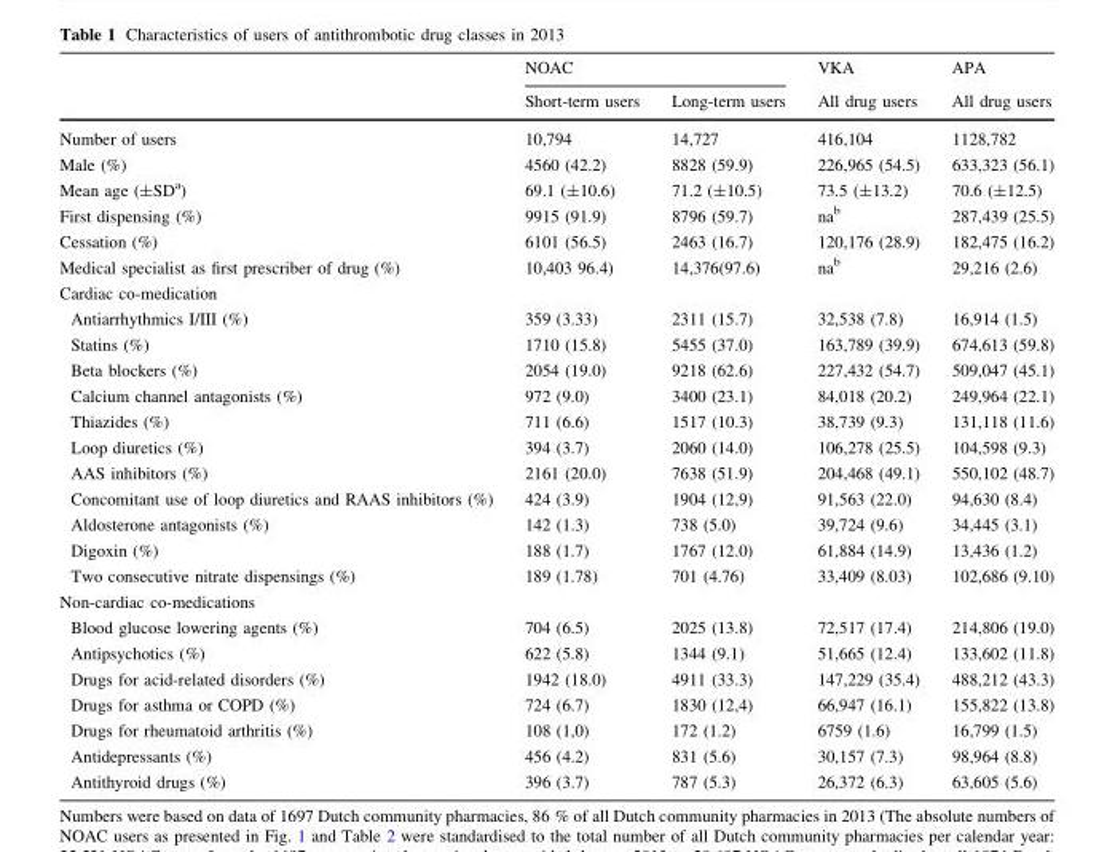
<table><thead><tr><td rowspan="2"></td><td colspan="2">NOAC</td><td rowspan="2">VKA All drug users</td><td rowspan="2">APA All drug users</td></tr><tr><td>Short-term users</td><td>Long-term users</td></tr></thead><tbody><tr><td>Number of users</td><td>10,794</td><td>14,727</td><td>416,104</td><td>1128,782</td></tr><tr><td>Male (%)</td><td>4560 (42.2)</td><td>8828 (59.9)</td><td>226,965 (54.5)</td><td>633,323 (56.1)</td></tr><tr><td>Mean age (±SD<sup>a</sup>)</td><td>69.1 (±10.6)</td><td>71.2 (±10.5)</td><td>73.5 (±13.2)</td><td>70.6 (±12.5)</td></tr><tr><td>First dispensing (%)</td><td>9915 (91.9)</td><td>8796 (59.7)</td><td>na<sup>b</sup></td><td>287,439 (25.5)</td></tr><tr><td>Cessation (%)</td><td>6101 (56.5)</td><td>2463 (16.7)</td><td>120,176 (28.9)</td><td>182,475 (16.2)</td></tr><tr><td>Medical specialist as first prescriber of drug (%)</td><td>10,403 96.4)</td><td>14,376(97.6)</td><td>na<sup>b</sup></td><td>29,216 (2.6)</td></tr><tr><td colspan="5">Cardiac co-medication</td></tr><tr><td>Antiarrhythmics I/III (%)</td><td>359 (3.33)</td><td>2311 (15.7)</td><td>32,538 (7.8)</td><td>16,914 (1.5)</td></tr><tr><td>Statins (%)</td><td>1710 (15.8)</td><td>5455 (37.0)</td><td>163,789 (39.9)</td><td>674,613 (59.8)</td></tr><tr><td>Beta blockers (%)</td><td>2054 (19.0)</td><td>9218 (62.6)</td><td>227,432 (54.7)</td><td>509,047 (45.1)</td></tr><tr><td>Calcium channel antagonists (%)</td><td>972 (9.0)</td><td>3400 (23.1)</td><td>84,018 (20.2)</td><td>249,964 (22.1)</td></tr><tr><td>Thiazides (%)</td><td>711 (6.6)</td><td>1517 (10.3)</td><td>38,739 (9.3)</td><td>131,118 (11.6)</td></tr><tr><td>Loop diuretics (%)</td><td>394 (3.7)</td><td>2060 (14.0)</td><td>106,278 (25.5)</td><td>104,598 (9.3)</td></tr><tr><td>AAS inhibitors (%)</td><td>2161 (20.0)</td><td>7638 (51.9)</td><td>204,468 (49.1)</td><td>550,102 (48.7)</td></tr><tr><td>Concomitant use of loop diuretics and RAAS inhibitors (%)</td><td>424 (3.9)</td><td>1904 (12,9)</td><td>91,563 (22.0)</td><td>94,630 (8.4)</td></tr><tr><td>Aldosterone antagonists (%)</td><td>142 (1.3)</td><td>738 (5.0)</td><td>39,724 (9.6)</td><td>34,445 (3.1)</td></tr><tr><td>Digoxin (%)</td><td>188 (1.7)</td><td>1767 (12.0)</td><td>61,884 (14.9)</td><td>13,436 (1.2)</td></tr><tr><td>Two consecutive nitrate dispensings (%)</td><td>189 (1.78)</td><td>701 (4.76)</td><td>33,409 (8.03)</td><td>102,686 (9.10)</td></tr><tr><td colspan="5">Non-cardiac co-medications</td></tr><tr><td>Blood glucose lowering agents (%)</td><td>704 (6.5)</td><td>2025 (13.8)</td><td>72,517 (17.4)</td><td>214,806 (19.0)</td></tr><tr><td>Antipsychotics (%)</td><td>622 (5.8)</td><td>1344 (9.1)</td><td>51,665 (12.4)</td><td>133,602 (11.8)</td></tr><tr><td>Drugs for acid-related disorders (%)</td><td>1942 (18.0)</td><td>4911 (33.3)</td><td>147,229 (35.4)</td><td>488,212 (43.3)</td></tr><tr><td>Drugs for asthma or COPD (%)</td><td>724 (6.7)</td><td>1830 (12,4)</td><td>66,947 (16.1)</td><td>155,822 (13.8)</td></tr><tr><td>Drugs for rheumatoid arthritis (%)</td><td>108 (1,0)</td><td>172 (1.2)</td><td>6759 (1.6)</td><td>16,799 (1.5)</td></tr><tr><td>Antidepressants (%)</td><td>456 (4.2)</td><td>831 (5.6)</td><td>30,157 (7.3)</td><td>98,964 (8.8)</td></tr><tr><td>Antithyroid drugs (%)</td><td>396 (3.7)</td><td>787 (5.3)</td><td>26,372 (6.3)</td><td>63,605 (5.6)</td></tr></tbody></table>